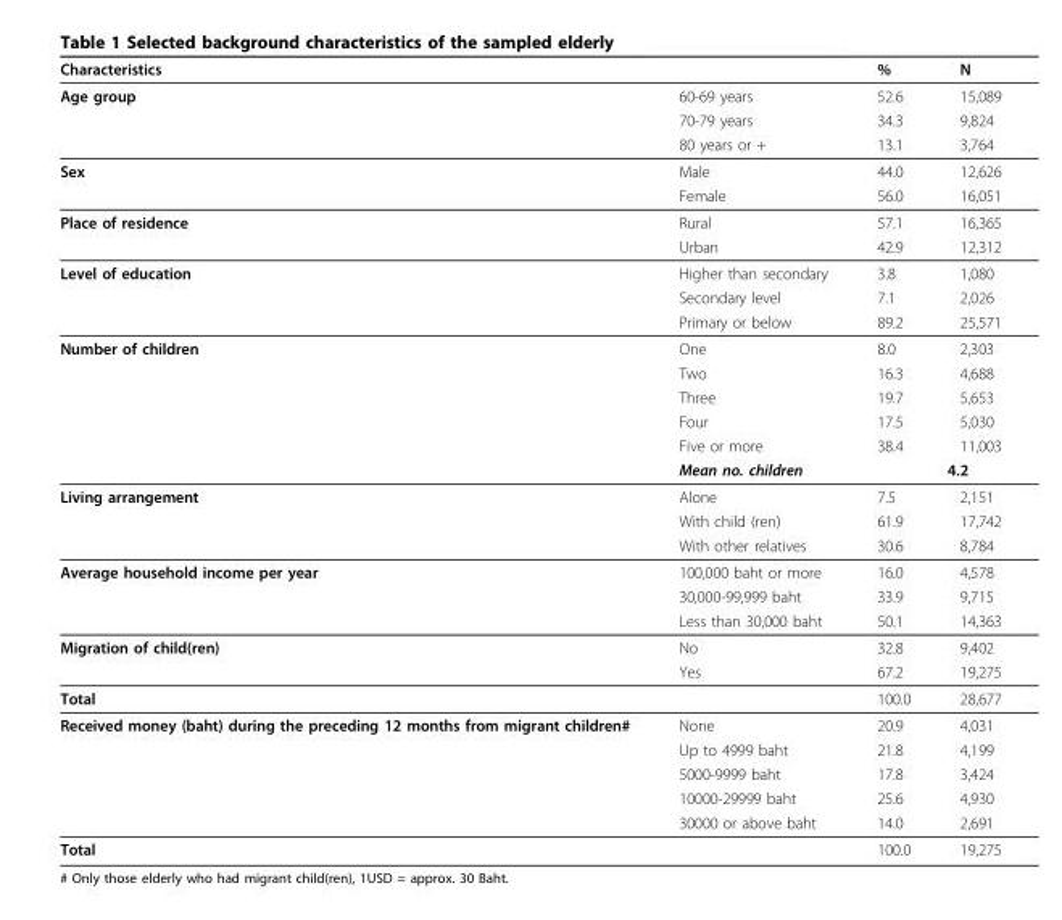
<table><thead><tr><td>Characteristics</td><td></td><td>%</td><td>N</td></tr></thead><tbody><tr><td rowspan="3">Age group</td><td>60-69 years</td><td>52.6</td><td>15,089</td></tr><tr><td>70-79 years</td><td>34.3</td><td>9,824</td></tr><tr><td>80 years or +</td><td>13.1</td><td>3,764</td></tr><tr><td rowspan="2">Sex</td><td>Male</td><td>44.0</td><td>12,626</td></tr><tr><td>Female</td><td>56.0</td><td>16,051</td></tr><tr><td rowspan="2">Place of residence</td><td>Rural</td><td>57.1</td><td>16,365</td></tr><tr><td>Urban</td><td>42.9</td><td>12,312</td></tr><tr><td rowspan="3">Level of education</td><td>Higher than secondary</td><td>3.8</td><td>1,080</td></tr><tr><td>Secondary level</td><td>7.1</td><td>2,026</td></tr><tr><td>Primary or below</td><td>89.2</td><td>25,571</td></tr><tr><td rowspan="6">Number of children</td><td>One</td><td>8.0</td><td>2,303</td></tr><tr><td>Two</td><td>16.3</td><td>4,688</td></tr><tr><td>Three</td><td>19.7</td><td>5,653</td></tr><tr><td>Four</td><td>17.5</td><td>5,030</td></tr><tr><td>Five or more</td><td>38.4</td><td>11,003</td></tr><tr><td>Mean no. children</td><td colspan="2">4.2</td></tr><tr><td rowspan="3">Living arrangement</td><td>Alone</td><td>7.5</td><td>2,151</td></tr><tr><td>With child (ren)</td><td>61.9</td><td>17,742</td></tr><tr><td>With other relatives</td><td>30.6</td><td>8,784</td></tr><tr><td rowspan="3">Average household income per year</td><td>100,000 baht or more</td><td>16.0</td><td>4,578</td></tr><tr><td>30,000-99,999 baht</td><td>33.9</td><td>9,715</td></tr><tr><td>Less than 30,000 baht</td><td>50.1</td><td>14,363</td></tr><tr><td rowspan="2">Migration of child(ren)</td><td>No</td><td>32.8</td><td>9,402</td></tr><tr><td>Yes</td><td>67.2</td><td>19,275</td></tr><tr><td>Total</td><td></td><td>100.0</td><td>28,677</td></tr><tr><td rowspan="5">Received money (baht) during the preceding 12 months from migrant children#</td><td>None</td><td>20.9</td><td>4,031</td></tr><tr><td>Up to 4999 baht</td><td>21.8</td><td>4,199</td></tr><tr><td>5000-9999 baht</td><td>17.8</td><td>3,424</td></tr><tr><td>10000-29999 baht</td><td>25.6</td><td>4,930</td></tr><tr><td>30000 or above baht</td><td>14.0</td><td>2,691</td></tr><tr><td>Total</td><td></td><td>100.0</td><td>19,275</td></tr></tbody></table>